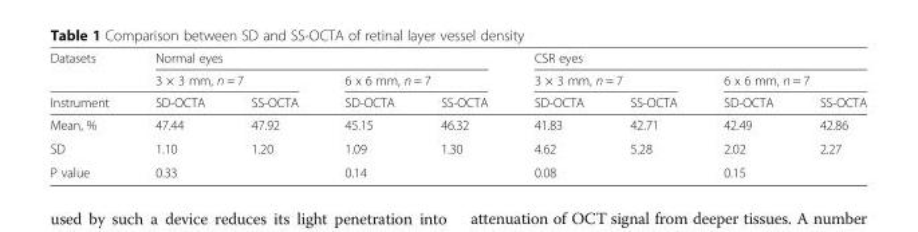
<table><thead><tr><td rowspan="3">Datasets Instrument</td><td colspan="4">Normal eyes</td><td colspan="4">CSR eyes</td></tr><tr><td colspan="2">3 × 3 mm, n = 7</td><td colspan="2">6 x 6 mm, n = 7</td><td colspan="2">3 × 3 mm, n = 7</td><td colspan="2">6 x 6 mm, n = 7</td></tr><tr><td>SD-OCTA</td><td>SS-OCTA</td><td>SD-OCTA</td><td>SS-OCTA</td><td>SD-OCTA</td><td>SS-OCTA</td><td>SD-OCTA</td><td>SS-OCTA</td></tr></thead><tbody><tr><td>Mean, %</td><td>47.44</td><td>47.92</td><td>45.15</td><td>46.32</td><td>41.83</td><td>42.71</td><td>42.49</td><td>42.86</td></tr><tr><td>SD</td><td>1.10</td><td>1.20</td><td>1.09</td><td>1.30</td><td>4.62</td><td>5.28</td><td>2.02</td><td>2.27</td></tr><tr><td>P value</td><td colspan="2">0.33</td><td colspan="2">0.14</td><td colspan="2">0.08</td><td colspan="2">0.15</td></tr></tbody></table>